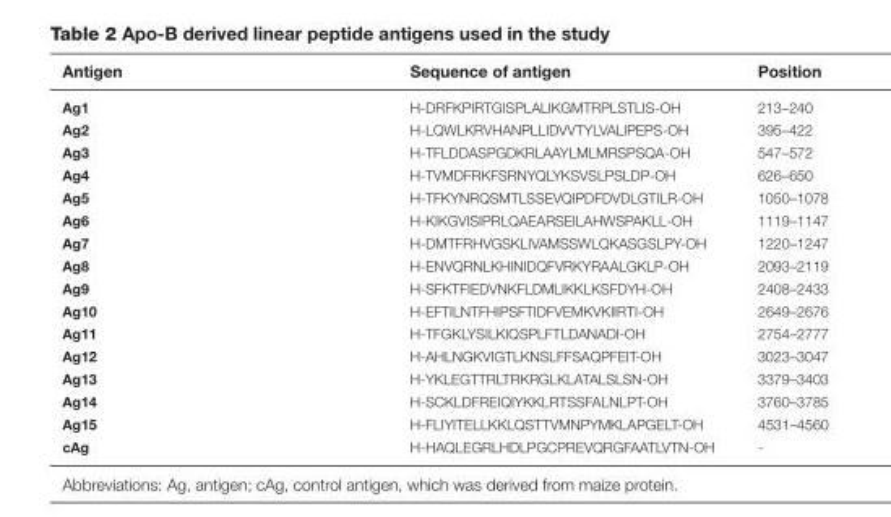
<table><thead><tr><td>Antigen</td><td>Sequence of antigen</td><td>Position</td></tr></thead><tbody><tr><td>Ag1</td><td>H-DRFKPIRTGISPLALIKGMTRPLSTLIS-OH</td><td>213–240</td></tr><tr><td>Ag2</td><td>H-LQWLKRVHANPLLIDVVTYLVALIPEPS-OH</td><td>395–422</td></tr><tr><td>Ag3</td><td>H-TFLDDASPGDKRLAAYLMLMRSPSQA-OH</td><td>547–572</td></tr><tr><td>Ag4</td><td>H-TVMDFRKFSRNYQLYKSVSLPSLDP-OH</td><td>626–650</td></tr><tr><td>Ag5</td><td>H-TFKYNRQSMTLSSEVQIPDFDVDLGTILR-OH</td><td>1050–1078</td></tr><tr><td>Ag6</td><td>H-KIKGVISIPRLQAEARSEILAHWSPAKLL-OH</td><td>1119–1147</td></tr><tr><td>Ag7</td><td>H-DMTFRHVGSKLIVAMSSWLQKASGSLPY-OH</td><td>1220–1247</td></tr><tr><td>Ag8</td><td>H-ENVQRNLKHINIDQFVRKYRAALGKLP-OH</td><td>2093–2119</td></tr><tr><td>Ag9</td><td>H-SFKTFIEDVNKFLDMLIKKLKSFDYH-OH</td><td>2408–2433</td></tr><tr><td>Ag10</td><td>H-EFTILNTFHIPSFTIDFVEMKVKIIRTI-OH</td><td>2649–2676</td></tr><tr><td>Ag11</td><td>H-TFGKLYSILKIQSPLFTLDANADI-OH</td><td>2754–2777</td></tr><tr><td>Ag12</td><td>H-AHLNGKVIGTLKNSLFFSAQPFEIT-OH</td><td>3023–3047</td></tr><tr><td>Ag13</td><td>H-YKLEGTTRLTRKRGLKLATALSLSN-OH</td><td>3379–3403</td></tr><tr><td>Ag14</td><td>H-SCKLDFREIQIYKKLRTSSFALNLPT-OH</td><td>3760–3785</td></tr><tr><td>Ag15</td><td>H-FLIYITELLKKLQSTTVMNPYMKLAPGELT-OH</td><td>4531–4560</td></tr><tr><td>cAg</td><td>H-HAQLEGRLHDLPGCPREVQRGFAATLVTN-OH</td><td>-</td></tr></tbody></table>